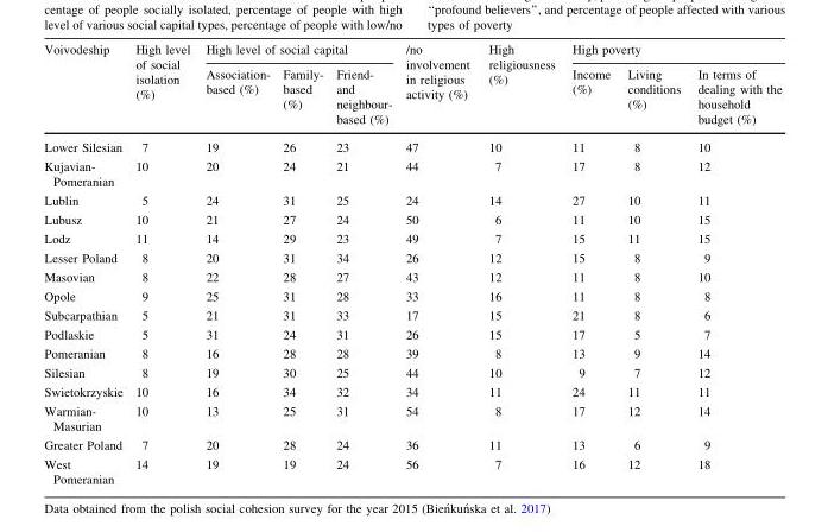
<table><thead><tr><td rowspan="2">Voivodeship</td><td rowspan="2">High level of social isolation (%)</td><td colspan="3">High level of social capital</td><td rowspan="2">/no involvement in religious activity (%)</td><td rowspan="2">High religiousness (%)</td><td colspan="3">High poverty</td></tr><tr><td>Association- based (%)</td><td>Family- based (%)</td><td>Friend- and neighbour- based (%)</td><td>Income (%)</td><td>Living conditions (%)</td><td>In terms of dealing with the household budget (%)</td></tr></thead><tbody><tr><td>Lower Silesian</td><td>7</td><td>19</td><td>26</td><td>23</td><td>47</td><td>10</td><td>11</td><td>8</td><td>10</td></tr><tr><td>Kujavian- Pomeranian</td><td>10</td><td>20</td><td>24</td><td>21</td><td>44</td><td>7</td><td>17</td><td>8</td><td>12</td></tr><tr><td>Lublin</td><td>5</td><td>24</td><td>31</td><td>25</td><td>24</td><td>14</td><td>27</td><td>10</td><td>11</td></tr><tr><td>Lubusz</td><td>10</td><td>21</td><td>27</td><td>24</td><td>50</td><td>6</td><td>11</td><td>10</td><td>15</td></tr><tr><td>Lodz</td><td>11</td><td>14</td><td>29</td><td>23</td><td>49</td><td>7</td><td>15</td><td>11</td><td>15</td></tr><tr><td>Lesser Poland</td><td>8</td><td>20</td><td>31</td><td>34</td><td>26</td><td>12</td><td>15</td><td>8</td><td>9</td></tr><tr><td>Masovian</td><td>8</td><td>22</td><td>28</td><td>27</td><td>43</td><td>12</td><td>11</td><td>8</td><td>10</td></tr><tr><td>Opole</td><td>9</td><td>25</td><td>31</td><td>28</td><td>33</td><td>16</td><td>11</td><td>8</td><td>8</td></tr><tr><td>Subcarpathian</td><td>5</td><td>21</td><td>31</td><td>33</td><td>17</td><td>15</td><td>21</td><td>8</td><td>6</td></tr><tr><td>Podlaskie</td><td>5</td><td>31</td><td>24</td><td>31</td><td>26</td><td>15</td><td>17</td><td>5</td><td>7</td></tr><tr><td>Pomeranian</td><td>8</td><td>16</td><td>28</td><td>28</td><td>39</td><td>8</td><td>13</td><td>9</td><td>14</td></tr><tr><td>Silesian</td><td>8</td><td>19</td><td>30</td><td>25</td><td>44</td><td>10</td><td>9</td><td>7</td><td>12</td></tr><tr><td>Swietokrzyskie</td><td>10</td><td>16</td><td>34</td><td>32</td><td>34</td><td>11</td><td>24</td><td>11</td><td>11</td></tr><tr><td>Warmian- Masurian</td><td>10</td><td>13</td><td>25</td><td>31</td><td>54</td><td>8</td><td>17</td><td>12</td><td>14</td></tr><tr><td>Greater Poland</td><td>7</td><td>20</td><td>28</td><td>24</td><td>36</td><td>11</td><td>13</td><td>6</td><td>9</td></tr><tr><td>West Pomeranian</td><td>14</td><td>19</td><td>19</td><td>24</td><td>56</td><td>7</td><td>16</td><td>12</td><td>18</td></tr></tbody></table>